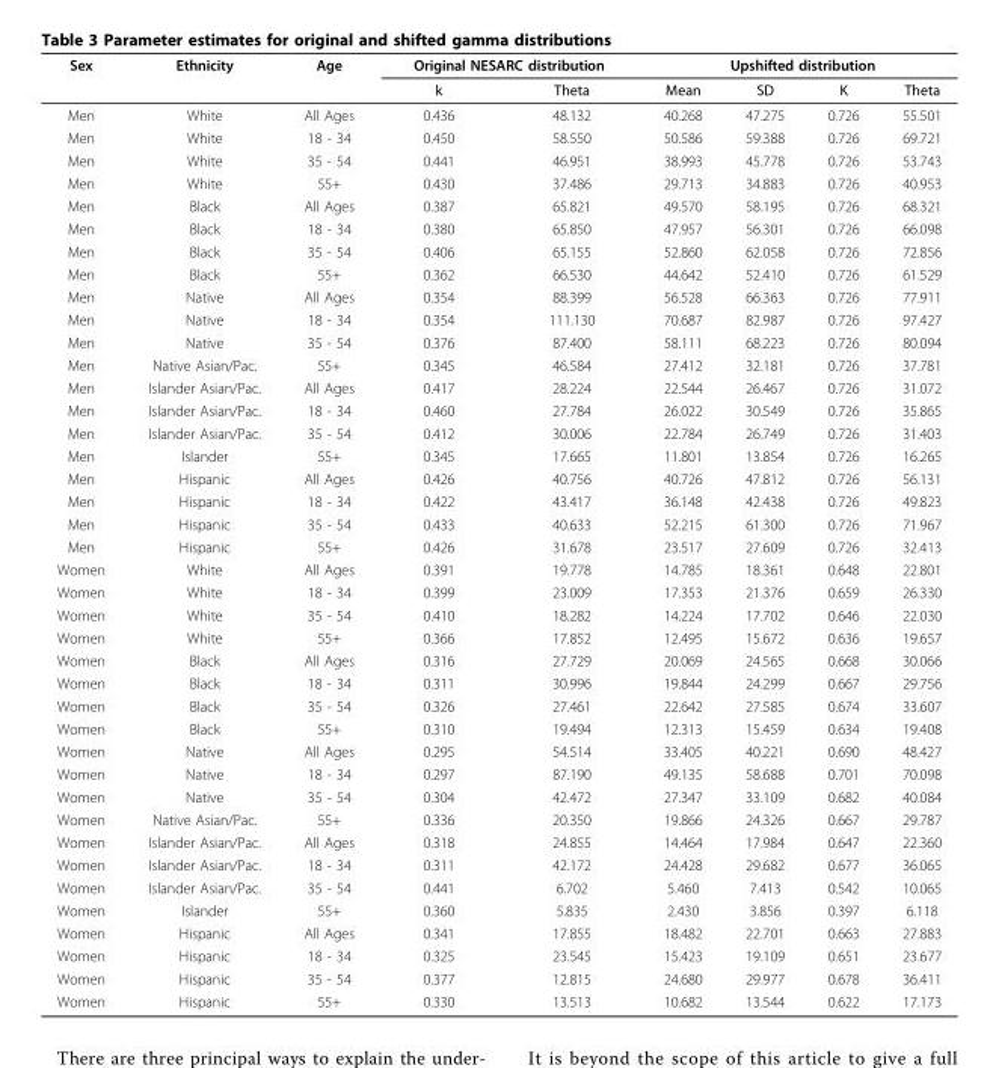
<table><thead><tr><td rowspan="2">Sex</td><td rowspan="2">Ethnicity</td><td rowspan="2">Age</td><td colspan="2">Original NESARC distribution</td><td colspan="4">Upshifted distribution</td></tr><tr><td>k</td><td>Theta</td><td>Mean</td><td>SD</td><td>K</td><td>Theta</td></tr></thead><tbody><tr><td>Men</td><td>White</td><td>All Ages</td><td>0.436</td><td>48.132</td><td>40.268</td><td>47.275</td><td>0.726</td><td>55.501</td></tr><tr><td>Men</td><td>White</td><td>18 - 34</td><td>0.450</td><td>58.550</td><td>50.586</td><td>59.388</td><td>0.726</td><td>69.721</td></tr><tr><td>Men</td><td>White</td><td>35 - 54</td><td>0.441</td><td>46.951</td><td>38.993</td><td>45.778</td><td>0.726</td><td>53.743</td></tr><tr><td>Men</td><td>White</td><td>55+</td><td>0.430</td><td>37.486</td><td>29.713</td><td>34.883</td><td>0.726</td><td>40.953</td></tr><tr><td>Men</td><td>Black</td><td>All Ages</td><td>0.387</td><td>65.821</td><td>49.570</td><td>58.195</td><td>0.726</td><td>68.321</td></tr><tr><td>Men</td><td>Black</td><td>18 - 34</td><td>0.380</td><td>65.850</td><td>47.957</td><td>56.301</td><td>0.726</td><td>66.098</td></tr><tr><td>Men</td><td>Black</td><td>35 - 54</td><td>0.406</td><td>65.155</td><td>52.860</td><td>62.058</td><td>0.726</td><td>72.856</td></tr><tr><td>Men</td><td>Black</td><td>55+</td><td>0.362</td><td>66.530</td><td>44.642</td><td>52.410</td><td>0.726</td><td>61.529</td></tr><tr><td>Men</td><td>Native</td><td>All Ages</td><td>0.354</td><td>88.399</td><td>56.528</td><td>66.363</td><td>0.726</td><td>77.911</td></tr><tr><td>Men</td><td>Native</td><td>18 - 34</td><td>0.354</td><td>111.130</td><td>70.687</td><td>82.987</td><td>0.726</td><td>97.427</td></tr><tr><td>Men</td><td>Native</td><td>35 - 54</td><td>0.376</td><td>87.400</td><td>58.111</td><td>68.223</td><td>0.726</td><td>80.094</td></tr><tr><td>Men</td><td>Native Asian/Pac.</td><td>55+</td><td>0.345</td><td>46.584</td><td>27.412</td><td>32.181</td><td>0.726</td><td>37.781</td></tr><tr><td>Men</td><td>Islander Asian/Pac.</td><td>All Ages</td><td>0.417</td><td>28.224</td><td>22.544</td><td>26.467</td><td>0.726</td><td>31.072</td></tr><tr><td>Men</td><td>Islander Asian/Pac.</td><td>18 - 34</td><td>0.460</td><td>27.784</td><td>26.022</td><td>30.549</td><td>0.726</td><td>35.865</td></tr><tr><td>Men</td><td>Islander Asian/Pac.</td><td>35 - 54</td><td>0.412</td><td>30.006</td><td>22.784</td><td>26.749</td><td>0.726</td><td>31.403</td></tr><tr><td>Men</td><td>Islander</td><td>55+</td><td>0.345</td><td>17.665</td><td>11.801</td><td>13.854</td><td>0.726</td><td>16.265</td></tr><tr><td>Men</td><td>Hispanic</td><td>All Ages</td><td>0.426</td><td>40.756</td><td>40.726</td><td>47.812</td><td>0.726</td><td>56.131</td></tr><tr><td>Men</td><td>Hispanic</td><td>18 - 34</td><td>0.422</td><td>43.417</td><td>36.148</td><td>42.438</td><td>0.726</td><td>49.823</td></tr><tr><td>Men</td><td>Hispanic</td><td>35 - 54</td><td>0.433</td><td>40.633</td><td>52.215</td><td>61.300</td><td>0.726</td><td>71.967</td></tr><tr><td>Men</td><td>Hispanic</td><td>55+</td><td>0.426</td><td>31.678</td><td>23.517</td><td>27.609</td><td>0.726</td><td>32.413</td></tr><tr><td>Women</td><td>White</td><td>All Ages</td><td>0.391</td><td>19.778</td><td>14.785</td><td>18.361</td><td>0.648</td><td>22.801</td></tr><tr><td>Women</td><td>White</td><td>18 - 34</td><td>0.399</td><td>23.009</td><td>17.353</td><td>21.376</td><td>0.659</td><td>26.330</td></tr><tr><td>Women</td><td>White</td><td>35 - 54</td><td>0.410</td><td>18.282</td><td>14.224</td><td>17.702</td><td>0.646</td><td>22.030</td></tr><tr><td>Women</td><td>White</td><td>55+</td><td>0.366</td><td>17.852</td><td>12.495</td><td>15.672</td><td>0.636</td><td>19.657</td></tr><tr><td>Women</td><td>Black</td><td>All Ages</td><td>0.316</td><td>27.729</td><td>20.069</td><td>24.565</td><td>0.668</td><td>30.066</td></tr><tr><td>Women</td><td>Black</td><td>18 - 34</td><td>0.311</td><td>30.996</td><td>19.844</td><td>24.299</td><td>0.667</td><td>29.756</td></tr><tr><td>Women</td><td>Black</td><td>35 - 54</td><td>0.326</td><td>27.461</td><td>22.642</td><td>27.585</td><td>0.674</td><td>33.607</td></tr><tr><td>Women</td><td>Black</td><td>55+</td><td>0.310</td><td>19.494</td><td>12.313</td><td>15.459</td><td>0.634</td><td>19.408</td></tr><tr><td>Women</td><td>Native</td><td>All Ages</td><td>0.295</td><td>54.514</td><td>33.405</td><td>40.221</td><td>0.690</td><td>48.427</td></tr><tr><td>Women</td><td>Native</td><td>18 - 34</td><td>0.297</td><td>87.190</td><td>49.135</td><td>58.688</td><td>0.701</td><td>70.098</td></tr><tr><td>Women</td><td>Native</td><td>35 - 54</td><td>0.304</td><td>42.472</td><td>27.347</td><td>33.109</td><td>0.682</td><td>40.084</td></tr><tr><td>Women</td><td>Native Asian/Pac.</td><td>55+</td><td>0.336</td><td>20.350</td><td>19.866</td><td>24.326</td><td>0.667</td><td>29.787</td></tr><tr><td>Women</td><td>Islander Asian/Pac.</td><td>All Ages</td><td>0.318</td><td>24.855</td><td>14.464</td><td>17.984</td><td>0.647</td><td>22.360</td></tr><tr><td>Women</td><td>Islander Asian/Pac.</td><td>18 - 34</td><td>0.311</td><td>42.172</td><td>24.428</td><td>29.682</td><td>0.677</td><td>36.065</td></tr><tr><td>Women</td><td>Islander Asian/Pac.</td><td>35 - 54</td><td>0.441</td><td>6.702</td><td>5.460</td><td>7.413</td><td>0.542</td><td>10.065</td></tr><tr><td>Women</td><td>Islander</td><td>55+</td><td>0.360</td><td>5.835</td><td>2.430</td><td>3.856</td><td>0.397</td><td>6.118</td></tr><tr><td>Women</td><td>Hispanic</td><td>All Ages</td><td>0.341</td><td>17.855</td><td>18.482</td><td>22.701</td><td>0.663</td><td>27.883</td></tr><tr><td>Women</td><td>Hispanic</td><td>18 - 34</td><td>0.325</td><td>23.545</td><td>15.423</td><td>19.109</td><td>0.651</td><td>23.677</td></tr><tr><td>Women</td><td>Hispanic</td><td>35 - 54</td><td>0.377</td><td>12.815</td><td>24.680</td><td>29.977</td><td>0.678</td><td>36.411</td></tr><tr><td>Women</td><td>Hispanic</td><td>55+</td><td>0.330</td><td>13.513</td><td>10.682</td><td>13.544</td><td>0.622</td><td>17.173</td></tr></tbody></table>